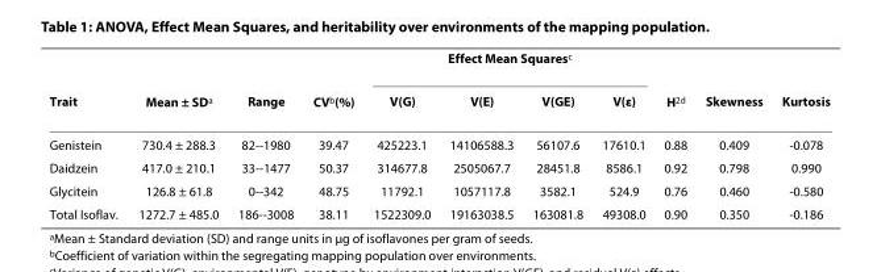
<table><thead><tr><td rowspan="2">Trait</td><td rowspan="2">Mean ± SD<sup>a</sup></td><td rowspan="2">Range</td><td rowspan="2">CV<sup>b</sup>(%)</td><td colspan="4">Effect Mean Squares<sup>c</sup></td><td rowspan="2">H<sup>2d</sup></td><td rowspan="2">Skewness</td><td rowspan="2">Kurtosis</td></tr><tr><td>V(G)</td><td>V(E)</td><td>V(GE)</td><td>V(ε)</td></tr></thead><tbody><tr><td>Genistein</td><td>730.4 ± 288.3</td><td>82--1980</td><td>39.47</td><td>425223.1</td><td>14106588.3</td><td>56107.6</td><td>17610.1</td><td>0.88</td><td>0.409</td><td>-0.078</td></tr><tr><td>Daidzein</td><td>417.0 ± 210.1</td><td>33--1477</td><td>50.37</td><td>314677.8</td><td>2505067.7</td><td>28451.8</td><td>8586.1</td><td>0.92</td><td>0.798</td><td>0.990</td></tr><tr><td>Glycitein</td><td>126.8 ± 61.8</td><td>0--342</td><td>48.75</td><td>11792.1</td><td>1057117.8</td><td>3582.1</td><td>524.9</td><td>0.76</td><td>0.460</td><td>-0.580</td></tr><tr><td>Total Isoflav.</td><td>1272.7 ± 485.0</td><td>186--3008</td><td>38.11</td><td>1522309.0</td><td>19163038.5</td><td>163081.8</td><td>49308.0</td><td>0.90</td><td>0.350</td><td>-0.186</td></tr></tbody></table>